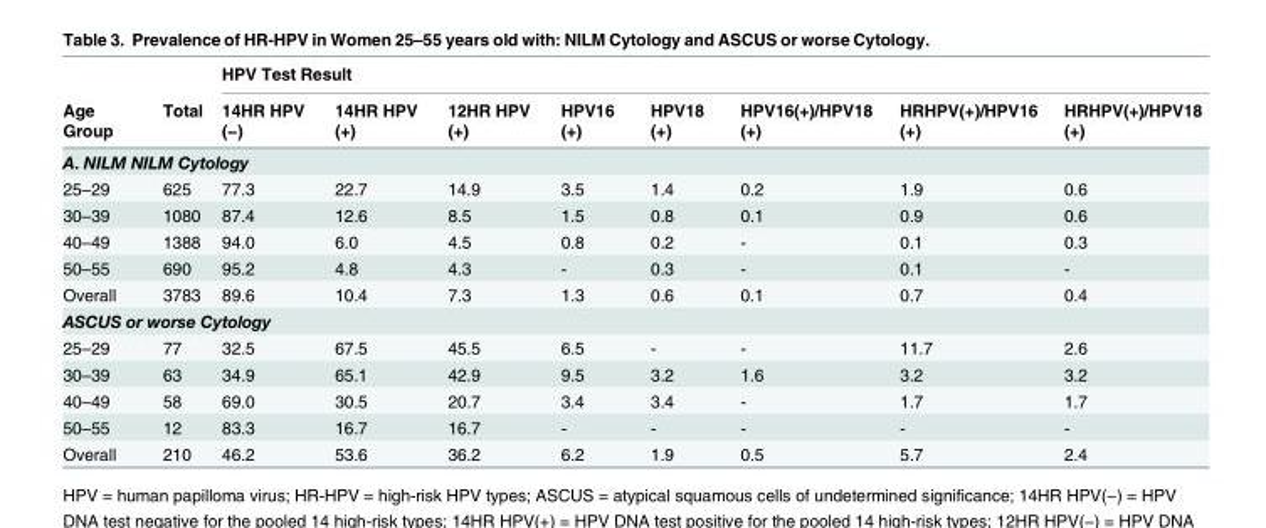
<table><thead><tr><td rowspan="2">Age Group</td><td rowspan="2">Total</td><td colspan="8">HPV Test Result</td></tr><tr><td>14HR HPV (−)</td><td>14HR HPV (+)</td><td>12HR HPV (+)</td><td>HPV16 (+)</td><td>HPV18 (+)</td><td>HPV16(+)/HPV18 (+)</td><td>HRHPV(+)/HPV16 (+)</td><td>HRHPV(+)/HPV18 (+)</td></tr></thead><tbody><tr><td colspan="10">A. NILM NILM Cytology</td></tr><tr><td>25–29</td><td>625</td><td>77.3</td><td>22.7</td><td>14.9</td><td>3.5</td><td>1.4</td><td>0.2</td><td>1.9</td><td>0.6</td></tr><tr><td>30–39</td><td>1080</td><td>87.4</td><td>12.6</td><td>8.5</td><td>1.5</td><td>0.8</td><td>0.1</td><td>0.9</td><td>0.6</td></tr><tr><td>40–49</td><td>1388</td><td>94.0</td><td>6.0</td><td>4.5</td><td>0.8</td><td>0.2</td><td>-</td><td>0.1</td><td>0.3</td></tr><tr><td>50–55</td><td>690</td><td>95.2</td><td>4.8</td><td>4.3</td><td>-</td><td>0.3</td><td>-</td><td>0.1</td><td>-</td></tr><tr><td>Overall</td><td>3783</td><td>89.6</td><td>10.4</td><td>7.3</td><td>1.3</td><td>0.6</td><td>0.1</td><td>0.7</td><td>0.4</td></tr><tr><td colspan="10">ASCUS or worse Cytology</td></tr><tr><td>25–29</td><td>77</td><td>32.5</td><td>67.5</td><td>45.5</td><td>6.5</td><td>-</td><td>-</td><td>11.7</td><td>2.6</td></tr><tr><td>30–39</td><td>63</td><td>34.9</td><td>65.1</td><td>42.9</td><td>9.5</td><td>3.2</td><td>1.6</td><td>3.2</td><td>3.2</td></tr><tr><td>40–49</td><td>58</td><td>69.0</td><td>30.5</td><td>20.7</td><td>3.4</td><td>3.4</td><td>-</td><td>1.7</td><td>1.7</td></tr><tr><td>50–55</td><td>12</td><td>83.3</td><td>16.7</td><td>16.7</td><td>-</td><td>-</td><td>-</td><td>-</td><td>-</td></tr><tr><td>Overall</td><td>210</td><td>46.2</td><td>53.6</td><td>36.2</td><td>6.2</td><td>1.9</td><td>0.5</td><td>5.7</td><td>2.4</td></tr></tbody></table>